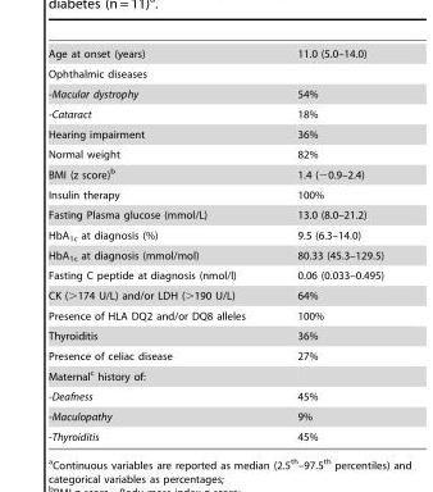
<table><tbody><tr><td>Age at onset (years)</td><td>11.0 (5.0–14.0)</td></tr><tr><td colspan="2">Ophthalmic diseases</td></tr><tr><td>-Macular dystrophy</td><td>54%</td></tr><tr><td>-Cataract</td><td>18%</td></tr><tr><td>Hearing impairment</td><td>36%</td></tr><tr><td>Normal weight</td><td>82%</td></tr><tr><td>BMI (z score)<sup>b</sup></td><td>1.4 (−0.9–2.4)</td></tr><tr><td>Insulin therapy</td><td>100%</td></tr><tr><td>Fasting Plasma glucose (mmol/L)</td><td>13.0 (8.0–21.2)</td></tr><tr><td>HbA<sub>1c</sub> at diagnosis (%)</td><td>9.5 (6.3–14.0)</td></tr><tr><td>HbA<sub>1c</sub> at diagnosis (mmol/mol)</td><td>80.33 (45.3–129.5)</td></tr><tr><td>Fasting C peptide at diagnosis (nmol/l)</td><td>0.06 (0.033–0.495)</td></tr><tr><td>CK (&gt;174 U/L) and/or LDH (&gt;190 U/L)</td><td>64%</td></tr><tr><td>Presence of HLA DQ2 and/or DQ8 alleles</td><td>100%</td></tr><tr><td>Thyroiditis</td><td>36%</td></tr><tr><td>Presence of celiac disease</td><td>27%</td></tr><tr><td colspan="2">Maternal<sup>c</sup> history of:</td></tr><tr><td>-Deafness</td><td>45%</td></tr><tr><td>-Maculopathy</td><td>9%</td></tr><tr><td>-Thyroiditis</td><td>45%</td></tr></tbody></table>